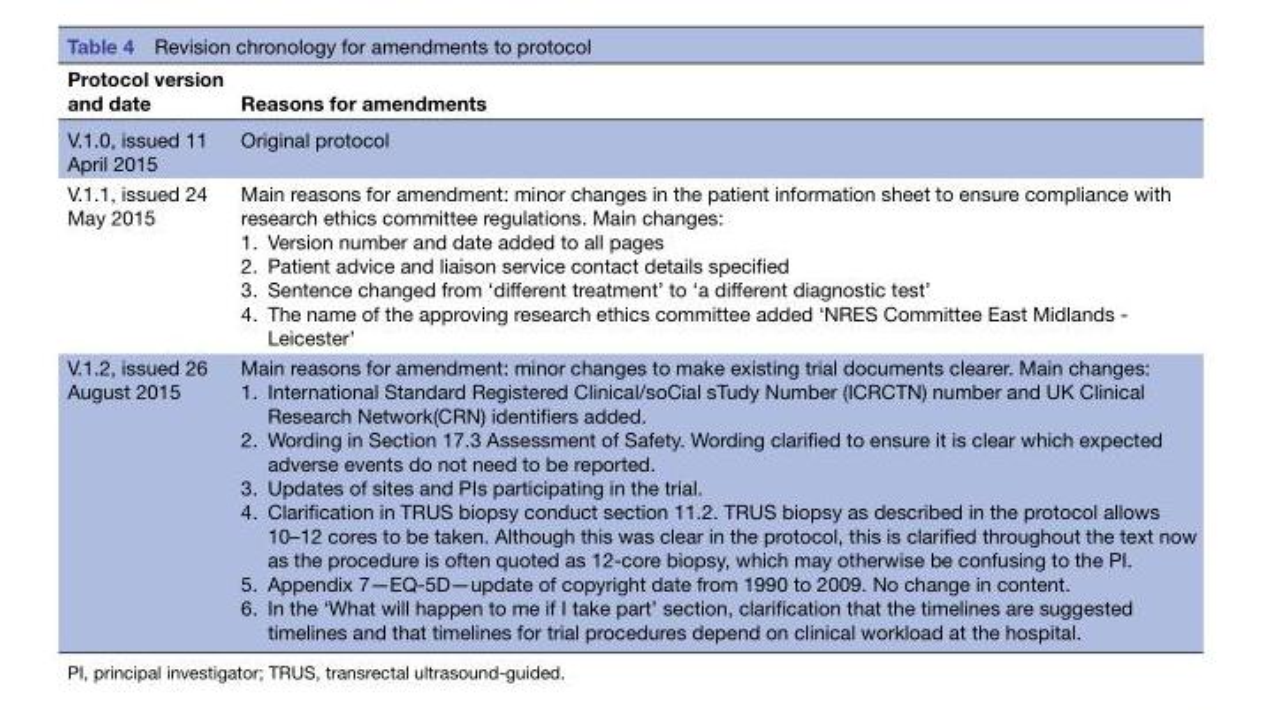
<table><thead><tr><td>Protocol version and date</td><td>Reasons for amendments</td></tr></thead><tbody><tr><td>V.1.0, issued 11 April 2015</td><td>Original protocol</td></tr><tr><td>V.1.1, issued 24 May 2015</td><td>Main reasons for amendment: minor changes in the patient information sheet to ensure compliance with research ethics committee regulations. Main changes: 1. Version number and date added to all pages 2. Patient advice and liaison service contact details specified 3. Sentence changed from ‘different treatment’ to ‘a different diagnostic test’ 4. The name of the approving research ethics committee added ‘NRES Committee East Midlands - Leicester’</td></tr><tr><td>V.1.2, issued 26 August 2015</td><td>Main reasons for amendment: minor changes to make existing trial documents clearer. Main changes: 1. International Standard Registered Clinical/soCial sTudy Number (ICRCTN) number and UK Clinical Research Network(CRN) identifiers added. 2. Wording in Section 17.3 Assessment of Safety. Wording clarified to ensure it is clear which expected adverse events do not need to be reported. 3. Updates of sites and PIs participating in the trial. 4. Clarification in TRUS biopsy conduct section 11.2. TRUS biopsy as described in the protocol allows 10–12 cores to be taken. Although this was clear in the protocol, this is clarified throughout the text now as the procedure is often quoted as 12-core biopsy, which may otherwise be confusing to the PI. 5. Appendix 7—EQ-5D—update of copyright date from 1990 to 2009. No change in content. 6. In the ‘What will happen to me if I take part’ section, clarification that the timelines are suggested timelines and that timelines for trial procedures depend on clinical workload at the hospital.</td></tr></tbody></table>